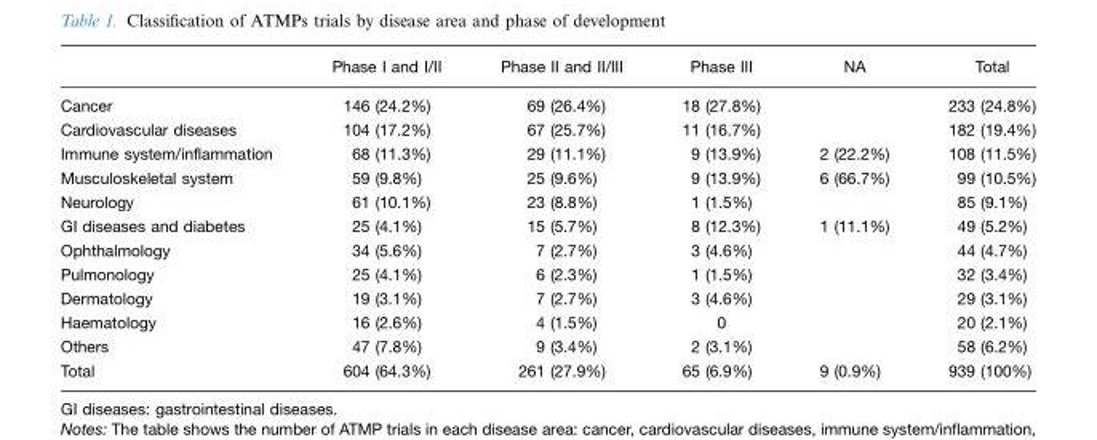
<table><thead><tr><td></td><td>Phase I and I/II</td><td>Phase II and II/III</td><td>Phase III</td><td>NA</td><td>Total</td></tr></thead><tbody><tr><td>Cancer</td><td>146 (24.2%)</td><td>69 (26.4%)</td><td>18 (27.8%)</td><td></td><td>233 (24.8%)</td></tr><tr><td>Cardiovascular diseases</td><td>104 (17.2%)</td><td>67 (25.7%)</td><td>11 (16.7%)</td><td></td><td>182 (19.4%)</td></tr><tr><td>Immune system/inflammation</td><td>68 (11.3%)</td><td>29 (11.1%)</td><td>9 (13.9%)</td><td>2 (22.2%)</td><td>108 (11.5%)</td></tr><tr><td>Musculoskeletal system</td><td>59 (9.8%)</td><td>25 (9.6%)</td><td>9 (13.9%)</td><td>6 (66.7%)</td><td>99 (10.5%)</td></tr><tr><td>Neurology</td><td>61 (10.1%)</td><td>23 (8.8%)</td><td>1 (1.5%)</td><td></td><td>85 (9.1%)</td></tr><tr><td>GI diseases and diabetes</td><td>25 (4.1%)</td><td>15 (5.7%)</td><td>8 (12.3%)</td><td>1 (11.1%)</td><td>49 (5.2%)</td></tr><tr><td>Ophthalmology</td><td>34 (5.6%)</td><td>7 (2.7%)</td><td>3 (4.6%)</td><td></td><td>44 (4.7%)</td></tr><tr><td>Pulmonology</td><td>25 (4.1%)</td><td>6 (2.3%)</td><td>1 (1.5%)</td><td></td><td>32 (3.4%)</td></tr><tr><td>Dermatology</td><td>19 (3.1%)</td><td>7 (2.7%)</td><td>3 (4.6%)</td><td></td><td>29 (3.1%)</td></tr><tr><td>Haematology</td><td>16 (2.6%)</td><td>4 (1.5%)</td><td>0</td><td></td><td>20 (2.1%)</td></tr><tr><td>Others</td><td>47 (7.8%)</td><td>9 (3.4%)</td><td>2 (3.1%)</td><td></td><td>58 (6.2%)</td></tr><tr><td>Total</td><td>604 (64.3%)</td><td>261 (27.9%)</td><td>65 (6.9%)</td><td>9 (0.9%)</td><td>939 (100%)</td></tr></tbody></table>